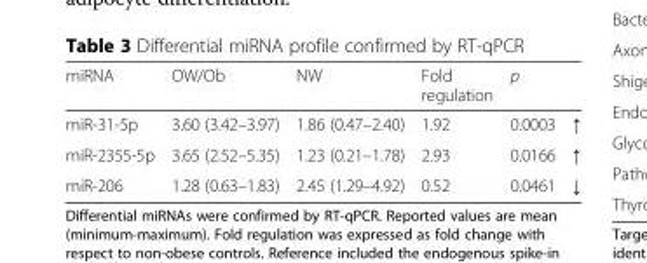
<table><thead><tr><td>miRNA</td><td>OW/Ob</td><td>NW</td><td>Fold regulation</td><td>p</td><td></td></tr></thead><tbody><tr><td>miR-31-5p</td><td>3.60 (3.42–3.97)</td><td>1.86 (0.47–2.40)</td><td>1.92</td><td>0.0003</td><td>↑</td></tr><tr><td>miR-2355-5p</td><td>3.65 (2.52–5.35)</td><td>1.23 (0.21–1.78)</td><td>2.93</td><td>0.0166</td><td>↑</td></tr><tr><td>miR-206</td><td>1.28 (0.63–1.83)</td><td>2.45 (1.29–4.92)</td><td>0.52</td><td>0.0461</td><td>↓</td></tr></tbody></table>